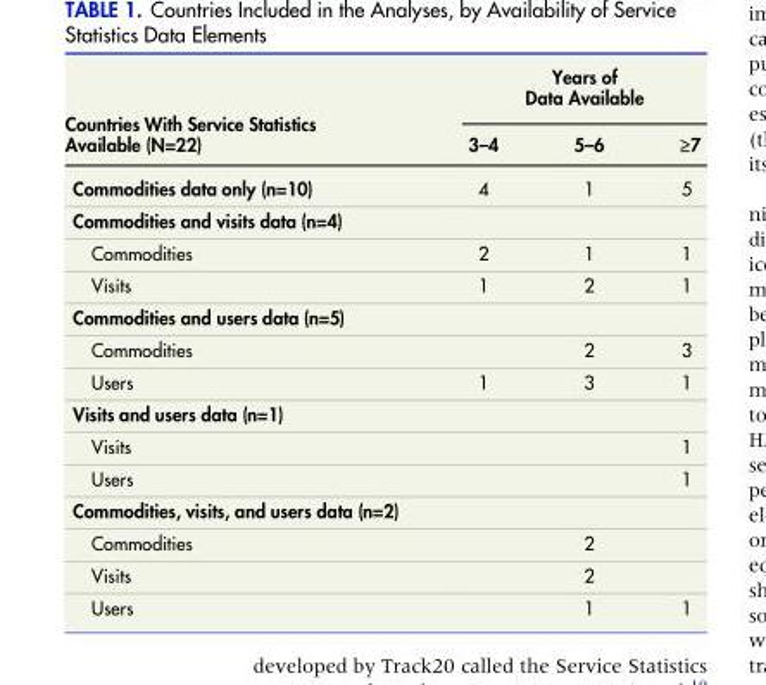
<table><thead><tr><td rowspan="2">Countries With Service Statistics Available (N=22)</td><td colspan="3">Years of Data Available</td></tr><tr><td>3–4</td><td>5–6</td><td>≥7</td></tr></thead><tbody><tr><td>Commodities data only (n=10)</td><td>4</td><td>1</td><td>5</td></tr><tr><td colspan="4">Commodities and visits data (n=4)</td></tr><tr><td>Commodities</td><td>2</td><td>1</td><td>1</td></tr><tr><td>Visits</td><td>1</td><td>2</td><td>1</td></tr><tr><td colspan="4">Commodities and users data (n=5)</td></tr><tr><td>Commodities</td><td></td><td>2</td><td>3</td></tr><tr><td>Users</td><td>1</td><td>3</td><td>1</td></tr><tr><td colspan="4">Visits and users data (n=1)</td></tr><tr><td>Visits</td><td></td><td></td><td>1</td></tr><tr><td>Users</td><td></td><td></td><td>1</td></tr><tr><td colspan="4">Commodities, visits, and users data (n=2)</td></tr><tr><td>Commodities</td><td></td><td>2</td><td></td></tr><tr><td>Visits</td><td></td><td>2</td><td></td></tr><tr><td>Users</td><td></td><td>1</td><td>1</td></tr></tbody></table>